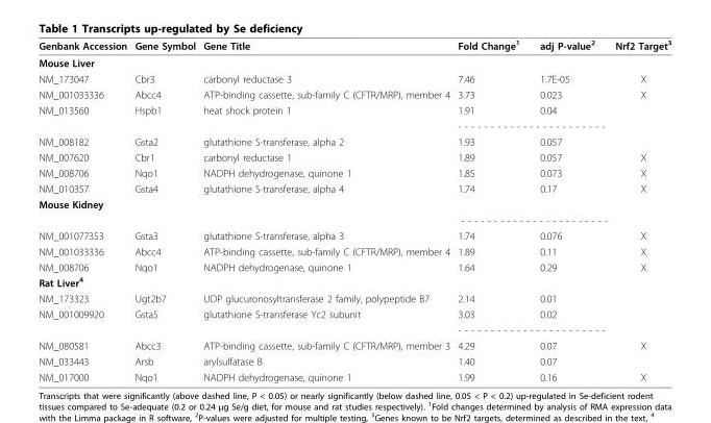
<table><thead><tr><td>Genbank Accession</td><td>Gene Symbol</td><td>Gene Title</td><td>Fold Change<sup>1</sup></td><td>adj P-value<sup>2</sup></td><td>Nrf2 Target<sup>3</sup></td></tr></thead><tbody><tr><td colspan="6">Mouse Liver</td></tr><tr><td>NM_173047</td><td>Cbr3</td><td>carbonyl reductase 3</td><td>7.46</td><td>1.7E-05</td><td>X</td></tr><tr><td>NM_001033336</td><td>Abcc4</td><td>ATP-binding cassette, sub-family C (CFTR/MRP), member 4</td><td>3.73</td><td>0.023</td><td>X</td></tr><tr><td rowspan="2">NM_013560</td><td>Hspb1</td><td>heat shock protein 1</td><td>1.91</td><td>0.04</td><td></td></tr><tr><td></td><td></td><td colspan="2">- - - - - - - - - - - - - - - - - - - - - - -</td><td></td></tr><tr><td>NM_008182</td><td>Gsta2</td><td>glutathione S-transferase, alpha 2</td><td>1.93</td><td>0.057</td><td></td></tr><tr><td>NM_007620</td><td>Cbr1</td><td>carbonyl reductase 1</td><td>1.89</td><td>0.057</td><td>X</td></tr><tr><td>NM_008706</td><td>Nqo1</td><td>NADPH dehydrogenase, quinone 1</td><td>1.85</td><td>0.073</td><td>X</td></tr><tr><td>NM_010357</td><td>Gsta4</td><td>glutathione S-transferase, alpha 4</td><td>1.74</td><td>0.17</td><td>X</td></tr><tr><td colspan="6">Mouse Kidney</td></tr><tr><td></td><td></td><td></td><td colspan="2">- - - - - - - - - - - - - - - - - - - - - - -</td><td></td></tr><tr><td>NM_001077353</td><td>Gsta3</td><td>glutathione S-transferase, alpha 3</td><td>1.74</td><td>0.076</td><td>X</td></tr><tr><td>NM_001033336</td><td>Abcc4</td><td>ATP-binding cassette, sub-family C (CFTR/MRP), member 4</td><td>1.89</td><td>0.11</td><td>X</td></tr><tr><td>NM_008706</td><td>Nqo1</td><td>NADPH dehydrogenase, quinone 1</td><td>1.64</td><td>0.29</td><td>X</td></tr><tr><td colspan="6">Rat Liver<sup>4</sup></td></tr><tr><td>NM_173323</td><td>Ugt2b7</td><td>UDP glucuronosyltransferase 2 family, polypeptide B7</td><td>2.14</td><td>0.01</td><td></td></tr><tr><td rowspan="2">NM_001009920</td><td>Gsta5</td><td>glutathione S-transferase Yc2 subunit</td><td>3.03</td><td>0.02</td><td></td></tr><tr><td></td><td></td><td colspan="2">- - - - - - - - - - - - - - - - - - - - - - -</td><td></td></tr><tr><td>NM_080581</td><td>Abcc3</td><td>ATP-binding cassette, sub-family C (CFTR/MRP), member 3</td><td>4.29</td><td>0.07</td><td>X</td></tr><tr><td>NM_033443</td><td>Arsb</td><td>arylsulfatase B</td><td>1.40</td><td>0.07</td><td></td></tr><tr><td>NM_017000</td><td>Nqo1</td><td>NADPH dehydrogenase, quinone 1</td><td>1.99</td><td>0.16</td><td>X</td></tr></tbody></table>